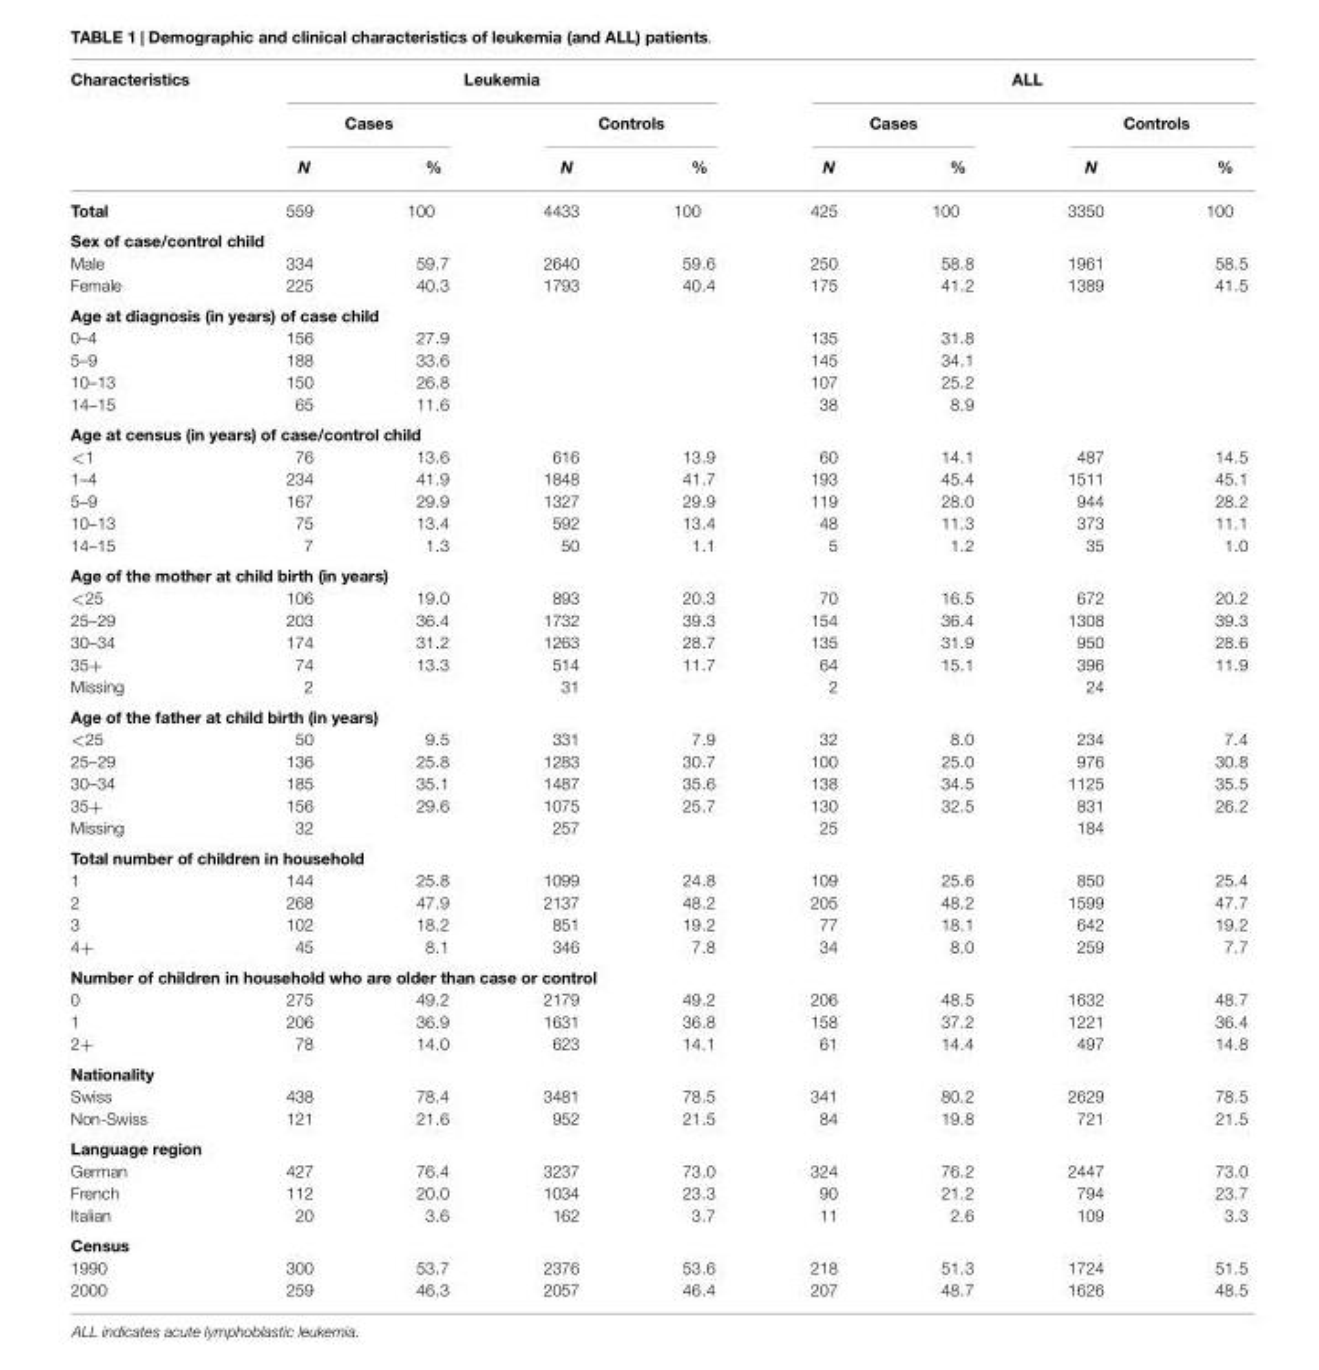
<table><thead><tr><td rowspan="3">Characteristics</td><td colspan="4">Leukemia</td><td colspan="4">ALL</td></tr><tr><td colspan="2">Cases</td><td colspan="2">Controls</td><td colspan="2">Cases</td><td colspan="2">Controls</td></tr><tr><td>N</td><td>%</td><td>N</td><td>%</td><td>N</td><td>%</td><td>N</td><td>%</td></tr></thead><tbody><tr><td>Total</td><td>559</td><td>100</td><td>4433</td><td>100</td><td>425</td><td>100</td><td>3350</td><td>100</td></tr><tr><td colspan="9">Sex of case/control child</td></tr><tr><td>Male</td><td>334</td><td>59.7</td><td>2640</td><td>59.6</td><td>250</td><td>58.8</td><td>1961</td><td>58.5</td></tr><tr><td>Female</td><td>225</td><td>40.3</td><td>1793</td><td>40.4</td><td>175</td><td>41.2</td><td>1389</td><td>41.5</td></tr><tr><td colspan="9">Age at diagnosis (in years) of case child</td></tr><tr><td>0–4</td><td>156</td><td>27.9</td><td></td><td></td><td>135</td><td>31.8</td><td></td><td></td></tr><tr><td>5–9</td><td>188</td><td>33.6</td><td></td><td></td><td>145</td><td>34.1</td><td></td><td></td></tr><tr><td>10–13</td><td>150</td><td>26.8</td><td></td><td></td><td>107</td><td>25.2</td><td></td><td></td></tr><tr><td>14–15</td><td>65</td><td>11.6</td><td></td><td></td><td>38</td><td>8.9</td><td></td><td></td></tr><tr><td colspan="9">Age at census (in years) of case/control child</td></tr><tr><td>&lt;1</td><td>76</td><td>13.6</td><td>616</td><td>13.9</td><td>60</td><td>14.1</td><td>487</td><td>14.5</td></tr><tr><td>1–4</td><td>234</td><td>41.9</td><td>1848</td><td>41.7</td><td>193</td><td>45.4</td><td>1511</td><td>45.1</td></tr><tr><td>5–9</td><td>167</td><td>29.9</td><td>1327</td><td>29.9</td><td>119</td><td>28.0</td><td>944</td><td>28.2</td></tr><tr><td>10–13</td><td>75</td><td>13.4</td><td>592</td><td>13.4</td><td>48</td><td>11.3</td><td>373</td><td>11.1</td></tr><tr><td>14–15</td><td>7</td><td>1.3</td><td>50</td><td>1.1</td><td>5</td><td>1.2</td><td>35</td><td>1.0</td></tr><tr><td colspan="9">Age of the mother at child birth (in years)</td></tr><tr><td>&lt;25</td><td>106</td><td>19.0</td><td>893</td><td>20.3</td><td>70</td><td>16.5</td><td>672</td><td>20.2</td></tr><tr><td>25–29</td><td>203</td><td>36.4</td><td>1732</td><td>39.3</td><td>154</td><td>36.4</td><td>1308</td><td>39.3</td></tr><tr><td>30–34</td><td>174</td><td>31.2</td><td>1263</td><td>28.7</td><td>135</td><td>31.9</td><td>950</td><td>28.6</td></tr><tr><td>35+</td><td>74</td><td>13.3</td><td>514</td><td>11.7</td><td>64</td><td>15.1</td><td>396</td><td>11.9</td></tr><tr><td>Missing</td><td>2</td><td></td><td>31</td><td></td><td>2</td><td></td><td>24</td><td></td></tr><tr><td colspan="9">Age of the father at child birth (in years)</td></tr><tr><td>&lt;25</td><td>50</td><td>9.5</td><td>331</td><td>7.9</td><td>32</td><td>8.0</td><td>234</td><td>7.4</td></tr><tr><td>25–29</td><td>136</td><td>25.8</td><td>1283</td><td>30.7</td><td>100</td><td>25.0</td><td>976</td><td>30.8</td></tr><tr><td>30–34</td><td>185</td><td>35.1</td><td>1487</td><td>35.6</td><td>138</td><td>34.5</td><td>1125</td><td>35.5</td></tr><tr><td>35+</td><td>156</td><td>29.6</td><td>1075</td><td>25.7</td><td>130</td><td>32.5</td><td>831</td><td>26.2</td></tr><tr><td>Missing</td><td>32</td><td></td><td>257</td><td></td><td>25</td><td></td><td>184</td><td></td></tr><tr><td colspan="9">Total number of children in household</td></tr><tr><td>1</td><td>144</td><td>25.8</td><td>1099</td><td>24.8</td><td>109</td><td>25.6</td><td>850</td><td>25.4</td></tr><tr><td>2</td><td>268</td><td>47.9</td><td>2137</td><td>48.2</td><td>205</td><td>48.2</td><td>1599</td><td>47.7</td></tr><tr><td>3</td><td>102</td><td>18.2</td><td>851</td><td>19.2</td><td>77</td><td>18.1</td><td>642</td><td>19.2</td></tr><tr><td>4+</td><td>45</td><td>8.1</td><td>346</td><td>7.8</td><td>34</td><td>8.0</td><td>259</td><td>7.7</td></tr><tr><td colspan="9">Number of children in household who are older than case or control</td></tr><tr><td>0</td><td>275</td><td>49.2</td><td>2179</td><td>49.2</td><td>206</td><td>48.5</td><td>1632</td><td>48.7</td></tr><tr><td>1</td><td>206</td><td>36.9</td><td>1631</td><td>36.8</td><td>158</td><td>37.2</td><td>1221</td><td>36.4</td></tr><tr><td>2+</td><td>78</td><td>14.0</td><td>623</td><td>14.1</td><td>61</td><td>14.4</td><td>497</td><td>14.8</td></tr><tr><td colspan="9">Nationality</td></tr><tr><td>Swiss</td><td>438</td><td>78.4</td><td>3481</td><td>78.5</td><td>341</td><td>80.2</td><td>2629</td><td>78.5</td></tr><tr><td>Non-Swiss</td><td>121</td><td>21.6</td><td>952</td><td>21.5</td><td>84</td><td>19.8</td><td>721</td><td>21.5</td></tr><tr><td colspan="9">Language region</td></tr><tr><td>German</td><td>427</td><td>76.4</td><td>3237</td><td>73.0</td><td>324</td><td>76.2</td><td>2447</td><td>73.0</td></tr><tr><td>French</td><td>112</td><td>20.0</td><td>1034</td><td>23.3</td><td>90</td><td>21.2</td><td>794</td><td>23.7</td></tr><tr><td>Italian</td><td>20</td><td>3.6</td><td>162</td><td>3.7</td><td>11</td><td>2.6</td><td>109</td><td>3.3</td></tr><tr><td colspan="9">Census</td></tr><tr><td>1990</td><td>300</td><td>53.7</td><td>2376</td><td>53.6</td><td>218</td><td>51.3</td><td>1724</td><td>51.5</td></tr><tr><td>2000</td><td>259</td><td>46.3</td><td>2057</td><td>46.4</td><td>207</td><td>48.7</td><td>1626</td><td>48.5</td></tr></tbody></table>